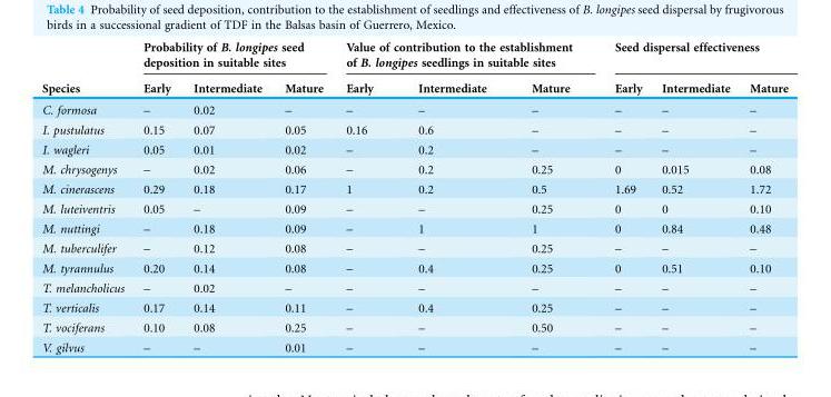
<table><thead><tr><td rowspan="2">Species</td><td colspan="3">Probability of B. longipes seed deposition in suitable sites</td><td colspan="3">Value of contribution to the establishment of B. longipes seedlings in suitable sites</td><td colspan="3">Seed dispersal effectiveness</td></tr><tr><td>Early</td><td>Intermediate</td><td>Mature</td><td>Early</td><td>Intermediate</td><td>Mature</td><td>Early</td><td>Intermediate</td><td>Mature</td></tr></thead><tbody><tr><td>C. formosa</td><td>–</td><td>0.02</td><td>–</td><td>–</td><td>–</td><td>–</td><td>–</td><td>–</td><td>–</td></tr><tr><td>I. pustulatus</td><td>0.15</td><td>0.07</td><td>0.05</td><td>0.16</td><td>0.6</td><td>–</td><td>–</td><td>–</td><td>–</td></tr><tr><td>I. wagleri</td><td>0.05</td><td>0.01</td><td>0.02</td><td>–</td><td>0.2</td><td>–</td><td>–</td><td>–</td><td>–</td></tr><tr><td>M. chrysogenys</td><td>–</td><td>0.02</td><td>0.06</td><td>–</td><td>0.2</td><td>0.25</td><td>0</td><td>0.015</td><td>0.08</td></tr><tr><td>M. cinerascens</td><td>0.29</td><td>0.18</td><td>0.17</td><td>1</td><td>0.2</td><td>0.5</td><td>1.69</td><td>0.52</td><td>1.72</td></tr><tr><td>M. luteiventris</td><td>0.05</td><td>–</td><td>0.09</td><td>–</td><td>–</td><td>0.25</td><td>0</td><td>0</td><td>0.10</td></tr><tr><td>M. nuttingi</td><td>–</td><td>0.18</td><td>0.09</td><td>–</td><td>1</td><td>1</td><td>0</td><td>0.84</td><td>0.48</td></tr><tr><td>M. tuberculifer</td><td>–</td><td>0.12</td><td>0.08</td><td>–</td><td>–</td><td>0.25</td><td>–</td><td>–</td><td>–</td></tr><tr><td>M. tyrannulus</td><td>0.20</td><td>0.14</td><td>0.08</td><td>–</td><td>0.4</td><td>0.25</td><td>0</td><td>0.51</td><td>0.10</td></tr><tr><td>T. melancholicus</td><td>–</td><td>0.02</td><td>–</td><td>–</td><td>–</td><td>–</td><td>–</td><td>–</td><td>–</td></tr><tr><td>T. verticalis</td><td>0.17</td><td>0.14</td><td>0.11</td><td>–</td><td>0.4</td><td>0.25</td><td>–</td><td>–</td><td>–</td></tr><tr><td>T. vociferans</td><td>0.10</td><td>0.08</td><td>0.25</td><td>–</td><td>–</td><td>0.50</td><td>–</td><td>–</td><td>–</td></tr><tr><td>V. gilvus</td><td>–</td><td>–</td><td>0.01</td><td>–</td><td>–</td><td>–</td><td>–</td><td>–</td><td>–</td></tr></tbody></table>